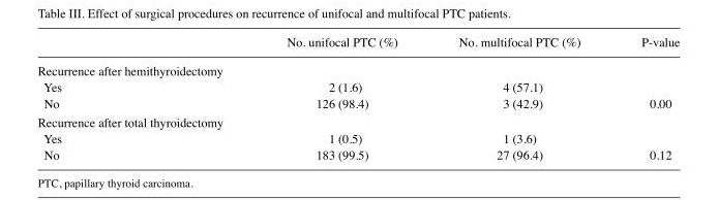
<table><thead><tr><td></td><td>No. unifocal PTC (%)</td><td>No. multifocal PTC (%)</td><td>P-value</td></tr></thead><tbody><tr><td colspan="4">Recurrence after hemithyroidectomy</td></tr><tr><td>Yes</td><td>2 (1.6)</td><td>4 (57.1)</td><td></td></tr><tr><td>No</td><td>126 (98.4)</td><td>3 (42.9)</td><td>0.00</td></tr><tr><td colspan="4">Recurrence after total thyroidectomy</td></tr><tr><td>Yes</td><td>1 (0.5)</td><td>1 (3.6)</td><td></td></tr><tr><td>No</td><td>183 (99.5)</td><td>27 (96.4)</td><td>0.12</td></tr></tbody></table>